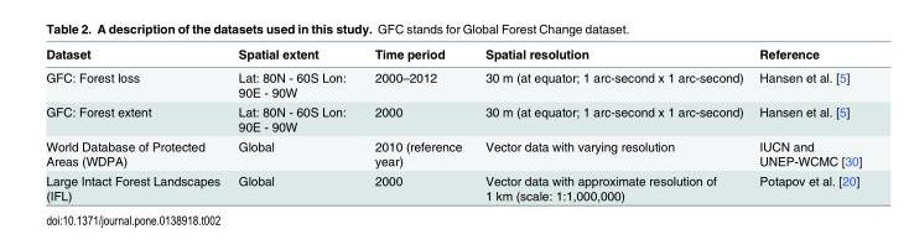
<table><thead><tr><td>Dataset</td><td>Spatial extent</td><td>Time period</td><td>Spatial resolution</td><td>Reference</td></tr></thead><tbody><tr><td>GFC: Forest loss</td><td>Lat: 80N - 60S Lon: 90E - 90W</td><td>2000–2012</td><td>30 m (at equator; 1 arc-second x 1 arc-second)</td><td>Hansen et al. [5]</td></tr><tr><td>GFC: Forest extent</td><td>Lat: 80N - 60S Lon: 90E - 90W</td><td>2000</td><td>30 m (at equator; 1 arc-second x 1 arc-second)</td><td>Hansen et al. [5]</td></tr><tr><td>World Database of Protected Areas (WDPA)</td><td>Global</td><td>2010 (reference year)</td><td>Vector data with varying resolution</td><td>IUCN and UNEP-WCMC [30]</td></tr><tr><td>Large Intact Forest Landscapes (IFL)</td><td>Global</td><td>2000</td><td>Vector data with approximate resolution of 1 km (scale: 1:1,000,000)</td><td>Potapov et al. [20]</td></tr></tbody></table>